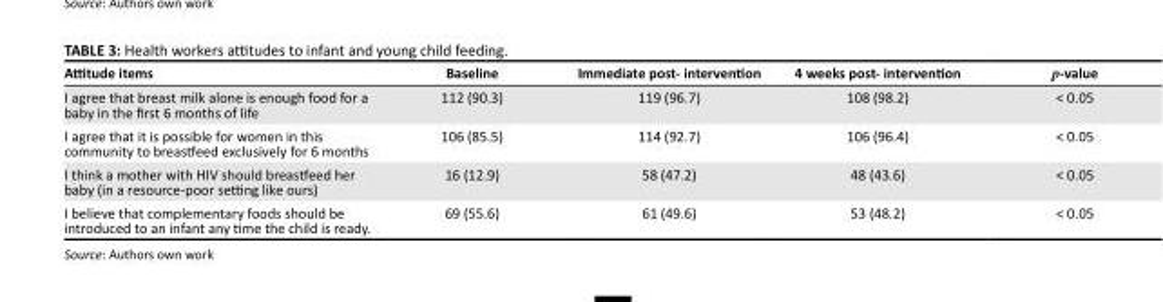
<table><thead><tr><td>Attitude items</td><td>Baseline</td><td>Immediate post- intervention</td><td>4 weeks post- intervention</td><td>p-value</td></tr></thead><tbody><tr><td>I agree that breast milk alone is enough food for a baby in the first 6 months of life</td><td>112 (90.3)</td><td>119 (96.7)</td><td>108 (98.2)</td><td>&lt; 0.05</td></tr><tr><td>I agree that it is possible for women in this community to breastfeed exclusively for 6 months</td><td>106 (85.5)</td><td>114 (92.7)</td><td>106 (96.4)</td><td>&lt; 0.05</td></tr><tr><td>I think a mother with HIV should breastfeed her baby (in a resource-poor setting like ours)</td><td>16 (12.9)</td><td>58 (47.2)</td><td>48 (43.6)</td><td>&lt; 0.05</td></tr><tr><td>I believe that complementary foods should be introduced to an infant any time the child is ready.</td><td>69 (55.6)</td><td>61 (49.6)</td><td>53 (48.2)</td><td>&lt; 0.05</td></tr></tbody></table>